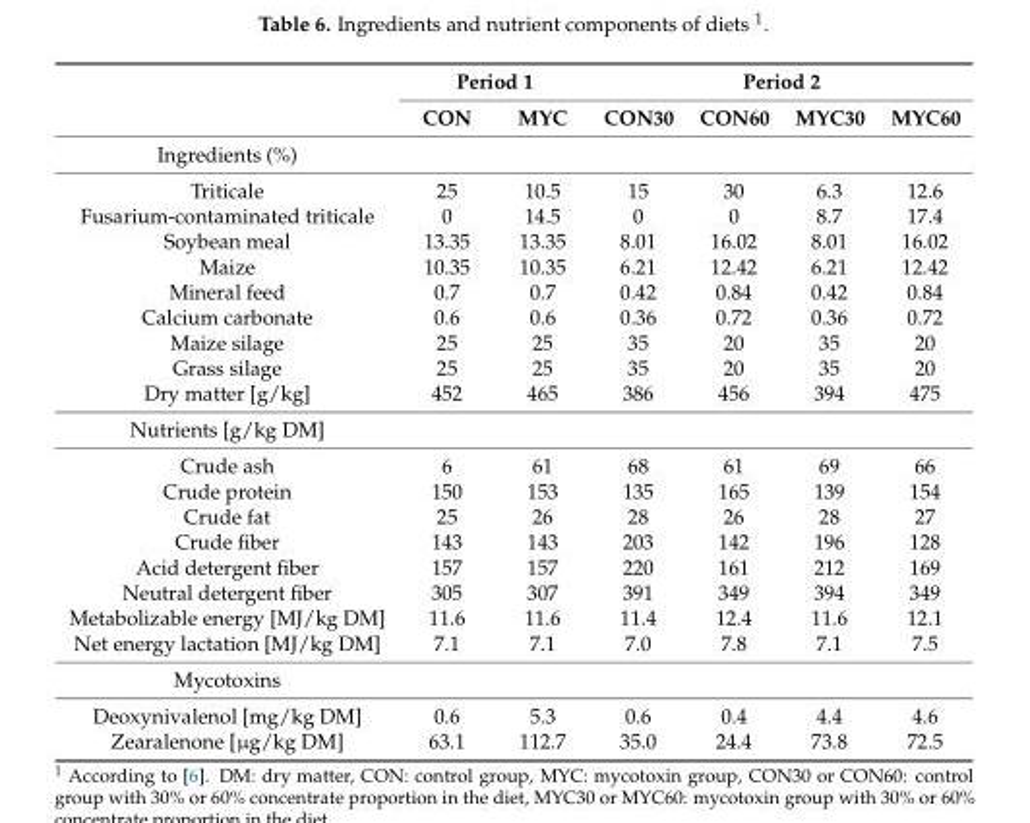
<table><thead><tr><td rowspan="2"></td><td colspan="2">Period 1</td><td colspan="4">Period 2</td></tr><tr><td>CON</td><td>MYC</td><td>CON30</td><td>CON60</td><td>MYC30</td><td>MYC60</td></tr></thead><tbody><tr><td colspan="7">Ingredients (%)</td></tr><tr><td>Triticale</td><td>25</td><td>10.5</td><td>15</td><td>30</td><td>6.3</td><td>12.6</td></tr><tr><td>Fusarium-contaminated triticale</td><td>0</td><td>14.5</td><td>0</td><td>0</td><td>8.7</td><td>17.4</td></tr><tr><td>Soybean meal</td><td>13.35</td><td>13.35</td><td>8.01</td><td>16.02</td><td>8.01</td><td>16.02</td></tr><tr><td>Maize</td><td>10.35</td><td>10.35</td><td>6.21</td><td>12.42</td><td>6.21</td><td>12.42</td></tr><tr><td>Mineral feed</td><td>0.7</td><td>0.7</td><td>0.42</td><td>0.84</td><td>0.42</td><td>0.84</td></tr><tr><td>Calcium carbonate</td><td>0.6</td><td>0.6</td><td>0.36</td><td>0.72</td><td>0.36</td><td>0.72</td></tr><tr><td>Maize silage</td><td>25</td><td>25</td><td>35</td><td>20</td><td>35</td><td>20</td></tr><tr><td>Grass silage</td><td>25</td><td>25</td><td>35</td><td>20</td><td>35</td><td>20</td></tr><tr><td>Dry matter [g/kg]</td><td>452</td><td>465</td><td>386</td><td>456</td><td>394</td><td>475</td></tr><tr><td colspan="7">Nutrients [g/kg DM]</td></tr><tr><td>Crude ash</td><td>6</td><td>61</td><td>68</td><td>61</td><td>69</td><td>66</td></tr><tr><td>Crude protein</td><td>150</td><td>153</td><td>135</td><td>165</td><td>139</td><td>154</td></tr><tr><td>Crude fat</td><td>25</td><td>26</td><td>28</td><td>26</td><td>28</td><td>27</td></tr><tr><td>Crude fiber</td><td>143</td><td>143</td><td>203</td><td>142</td><td>196</td><td>128</td></tr><tr><td>Acid detergent fiber</td><td>157</td><td>157</td><td>220</td><td>161</td><td>212</td><td>169</td></tr><tr><td>Neutral detergent fiber</td><td>305</td><td>307</td><td>391</td><td>349</td><td>394</td><td>349</td></tr><tr><td>Metabolizable energy [MJ/kg DM]</td><td>11.6</td><td>11.6</td><td>11.4</td><td>12.4</td><td>11.6</td><td>12.1</td></tr><tr><td>Net energy lactation [MJ/kg DM]</td><td>7.1</td><td>7.1</td><td>7.0</td><td>7.8</td><td>7.1</td><td>7.5</td></tr><tr><td colspan="7">Mycotoxins</td></tr><tr><td>Deoxynivalenol [mg/kg DM]</td><td>0.6</td><td>5.3</td><td>0.6</td><td>0.4</td><td>4.4</td><td>4.6</td></tr><tr><td>Zearalenone [µg/kg DM]</td><td>63.1</td><td>112.7</td><td>35.0</td><td>24.4</td><td>73.8</td><td>72.5</td></tr></tbody></table>